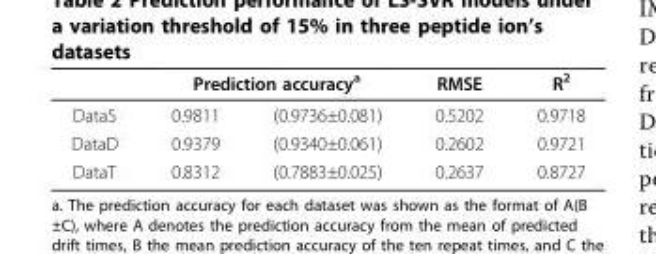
<table><thead><tr><td rowspan="2">DataS</td><td colspan="2">Prediction accuracy<sup>a</sup></td><td rowspan="2">RMSE 0.5202</td><td rowspan="2">R<sup>2</sup> 0.9718</td></tr><tr><td>0.9811</td><td>(0.9736±0.081)</td></tr></thead><tbody><tr><td>DataD</td><td>0.9379</td><td>(0.9340±0.061)</td><td>0.2602</td><td>0.9721</td></tr><tr><td>DataT</td><td>0.8312</td><td>(0.7883±0.025)</td><td>0.2637</td><td>0.8727</td></tr></tbody></table>